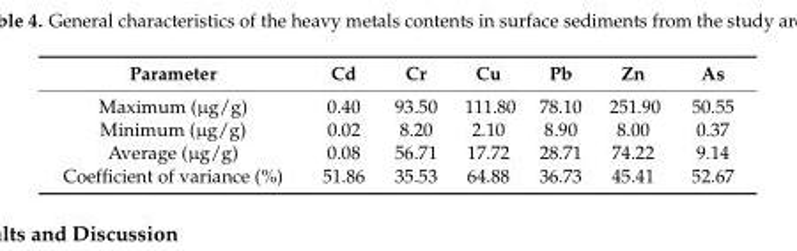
<table><thead><tr><td>Parameter</td><td>Cd</td><td>Cr</td><td>Cu</td><td>Pb</td><td>Zn</td><td>As</td></tr></thead><tbody><tr><td>Maximum (µg/g)</td><td>0.40</td><td>93.50</td><td>111.80</td><td>78.10</td><td>251.90</td><td>50.55</td></tr><tr><td>Minimum (µg/g)</td><td>0.02</td><td>8.20</td><td>2.10</td><td>8.90</td><td>8.00</td><td>0.37</td></tr><tr><td>Average (µg/g)</td><td>0.08</td><td>56.71</td><td>17.72</td><td>28.71</td><td>74.22</td><td>9.14</td></tr><tr><td>Coefficient of variance (%)</td><td>51.86</td><td>35.53</td><td>64.88</td><td>36.73</td><td>45.41</td><td>52.67</td></tr></tbody></table>